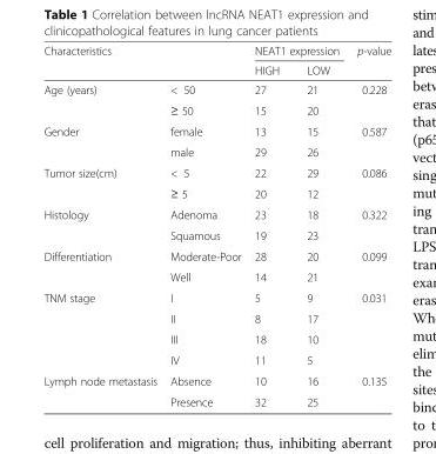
<table><thead><tr><td rowspan="2" colspan="2">Characteristics</td><td colspan="2">NEAT1 expression</td><td rowspan="3">p-value 0.228</td></tr><tr><td rowspan="2">HIGH 27</td><td rowspan="2">LOW 21</td></tr><tr><td>Age (years)</td><td>&lt; 50</td></tr></thead><tbody><tr><td></td><td>≥ 50</td><td>15</td><td>20</td><td></td></tr><tr><td rowspan="2">Gender</td><td>female</td><td>13</td><td>15</td><td>0.587</td></tr><tr><td>male</td><td>29</td><td>26</td><td></td></tr><tr><td rowspan="2">Tumor size(cm)</td><td>&lt; 5</td><td>22</td><td>29</td><td>0.086</td></tr><tr><td>≥ 5</td><td>20</td><td>12</td><td></td></tr><tr><td rowspan="2">Histology</td><td>Adenoma</td><td>23</td><td>18</td><td>0.322</td></tr><tr><td>Squamous</td><td>19</td><td>23</td><td></td></tr><tr><td rowspan="2">Differentiation</td><td>Moderate-Poor</td><td>28</td><td>20</td><td>0.099</td></tr><tr><td>Well</td><td>14</td><td>21</td><td></td></tr><tr><td rowspan="4">TNM stage</td><td>I</td><td>5</td><td>9</td><td>0.031</td></tr><tr><td>II</td><td>8</td><td>17</td><td></td></tr><tr><td>III</td><td>18</td><td>10</td><td></td></tr><tr><td>IV</td><td>11</td><td>5</td><td></td></tr><tr><td rowspan="2">Lymph node metastasis</td><td>Absence</td><td>10</td><td>16</td><td>0.135</td></tr><tr><td>Presence</td><td>32</td><td>25</td><td></td></tr></tbody></table>